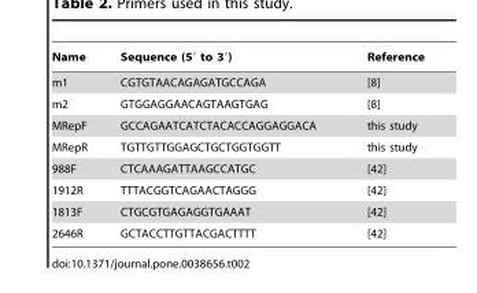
<table><thead><tr><td>Name</td><td>Sequence (5′ to 3′)</td><td>Reference</td></tr></thead><tbody><tr><td>m1</td><td>CGTGTAACAGAGATGCCAGA</td><td>[8]</td></tr><tr><td>m2</td><td>GTGGAGGAACAGTAAGTGAG</td><td>[8]</td></tr><tr><td>MRepF</td><td>GCCAGAATCATCTACACCAGGAGGACA</td><td>this study</td></tr><tr><td>MRepR</td><td>TGTTGTTGGAGCTGCTGGTGGTT</td><td>this study</td></tr><tr><td>988F</td><td>CTCAAAGATTAAGCCATGC</td><td>[42]</td></tr><tr><td>1912R</td><td>TTTACGGTCAGAACTAGGG</td><td>[42]</td></tr><tr><td>1813F</td><td>CTGCGTGAGAGGTGAAAT</td><td>[42]</td></tr><tr><td>2646R</td><td>GCTACCTTGTTACGACTTTT</td><td>[42]</td></tr></tbody></table>